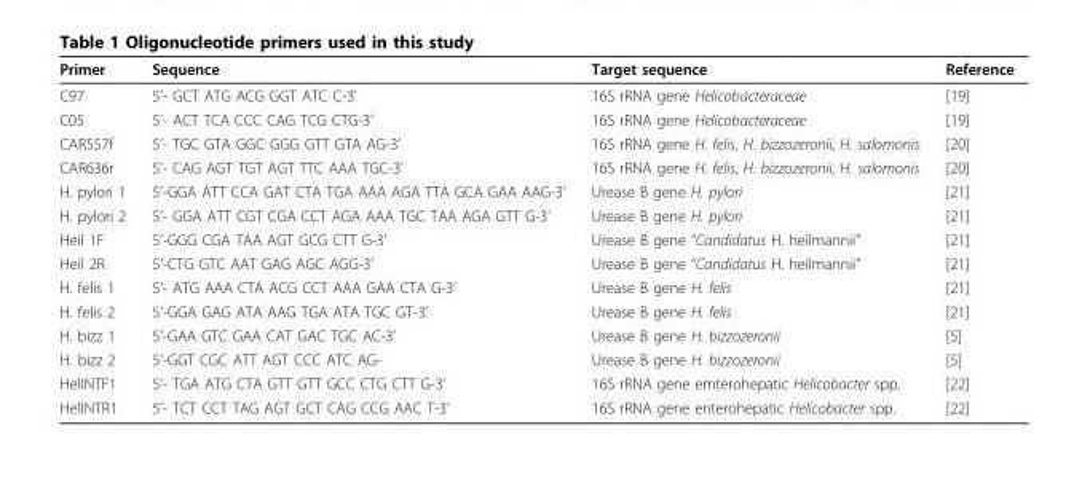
<table><thead><tr><td>Primer</td><td>Sequence</td><td>Target sequence</td><td>Reference</td></tr></thead><tbody><tr><td>C97</td><td>5’- GCT ATG ACG GGT ATC C-3’</td><td>16S rRNA gene Helicobacteraceae</td><td>[19]</td></tr><tr><td>C05</td><td>5’- ACT TCA CCC CAG TCG CTG-3’</td><td>16S rRNA gene Helicobacteraceae</td><td>[19]</td></tr><tr><td>CAR557f</td><td>5’- TGC GTA GGC GGG GTT GTA AG-3’</td><td>16S rRNA gene H. felis, H. bizzozeronii, H. salomonis</td><td>[20]</td></tr><tr><td>CAR636r</td><td>5’- CAG AGT TGT AGT TTC AAA TGC-3’</td><td>16S rRNA gene H. felis, H. bizzozeronii, H. salomonis</td><td>[20]</td></tr><tr><td>H. pylori 1</td><td>5’-GGA ATT CCA GAT CTA TGA AAA AGA TTA GCA GAA AAG-3’</td><td>Urease B gene H. pylori</td><td>[21]</td></tr><tr><td>H. pylori 2</td><td>5’- GGA ATT CGT CGA CCT AGA AAA TGC TAA AGA GTT G-3’</td><td>Urease B gene H. pylori</td><td>[21]</td></tr><tr><td>Heil 1F</td><td>5’-GGG CGA TAA AGT GCG CTT G-3’</td><td>Urease B gene “Candidatus H. heilmannii”</td><td>[21]</td></tr><tr><td>Heil 2R</td><td>5’-CTG GTC AAT GAG AGC AGG-3’</td><td>Urease B gene “Candidatus H. heilmannii”</td><td>[21]</td></tr><tr><td>H. felis 1</td><td>5’- ATG AAA CTA ACG CCT AAA GAA CTA G-3’</td><td>Urease B gene H. felis</td><td>[21]</td></tr><tr><td>H. felis 2</td><td>5’-GGA GAG ATA AAG TGA ATA TGC GT-3’</td><td>Urease B gene H. felis</td><td>[21]</td></tr><tr><td>H. bizz 1</td><td>5’-GAA GTC GAA CAT GAC TGC AC-3’</td><td>Urease B gene H. bizzozeronii</td><td>[5]</td></tr><tr><td>H. bizz 2</td><td>5’-GGT CGC ATT AGT CCC ATC AG-</td><td>Urease B gene H. bizzozeronii</td><td>[5]</td></tr><tr><td>HelINTF1</td><td>5’- TGA ATG CTA GTT GTT GCC CTG CTT G-3’</td><td>16S rRNA gene emterohepatic Helicobacter spp.</td><td>[22]</td></tr><tr><td>HelINTR1</td><td>5’- TCT CCT TAG AGT GCT CAG CCG AAC T-3’</td><td>16S rRNA gene enterohepatic Helicobacter spp.</td><td>[22]</td></tr></tbody></table>